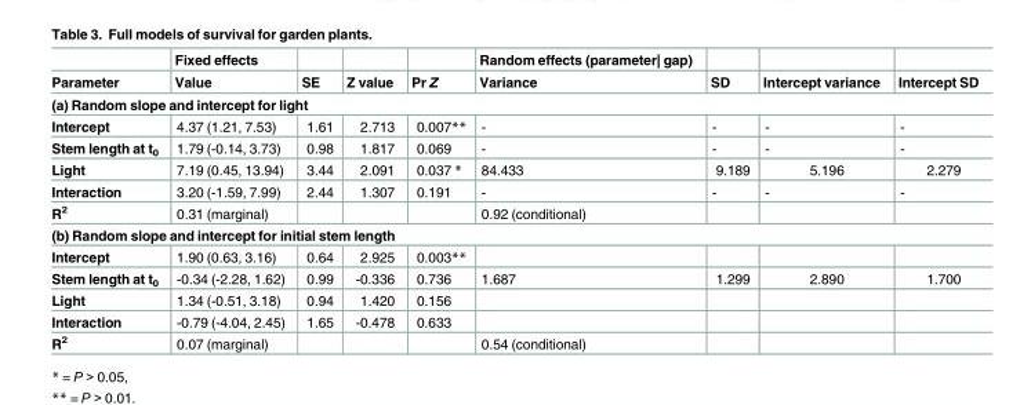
<table><thead><tr><td rowspan="2">Parameter</td><td rowspan="2">Fixed effects Value</td><td rowspan="2">SE</td><td rowspan="2">Z value</td><td rowspan="2">Pr Z</td><td rowspan="2">Random effects (parameter| gap) Variance</td><td rowspan="2">SD</td><td rowspan="2">Intercept variance</td><td rowspan="2">Intercept SD</td></tr><tr></tr></thead><tbody><tr><td colspan="9">(a) Random slope and intercept for light</td></tr><tr><td>Intercept</td><td>4.37 (1.21, 7.53)</td><td>1.61</td><td>2.713</td><td>0.007**</td><td>-</td><td>-</td><td>-</td><td>-</td></tr><tr><td>Stem length at t<sub>0</sub></td><td>1.79 (-0.14, 3.73)</td><td>0.98</td><td>1.817</td><td>0.069</td><td>-</td><td>-</td><td>-</td><td>-</td></tr><tr><td>Light</td><td>7.19 (0.45, 13.94)</td><td>3.44</td><td>2.091</td><td>0.037 *</td><td>84.433</td><td>9.189</td><td>5.196</td><td>2.279</td></tr><tr><td>Interaction</td><td>3.20 (-1.59, 7.99)</td><td>2.44</td><td>1.307</td><td>0.191</td><td>-</td><td>-</td><td>-</td><td>-</td></tr><tr><td>R<sup>2</sup></td><td>0.31 (marginal)</td><td></td><td></td><td></td><td>0.92 (conditional)</td><td></td><td></td><td></td></tr><tr><td colspan="9">(b) Random slope and intercept for initial stem length</td></tr><tr><td>Intercept</td><td>1.90 (0.63, 3.16)</td><td>0.64</td><td>2.925</td><td>0.003**</td><td></td><td></td><td></td><td></td></tr><tr><td>Stem length at t<sub>0</sub></td><td>-0.34 (-2.28, 1.62)</td><td>0.99</td><td>-0.336</td><td>0.736</td><td>1.687</td><td>1.299</td><td>2.890</td><td>1.700</td></tr><tr><td>Light</td><td>1.34 (-0.51, 3.18)</td><td>0.94</td><td>1.420</td><td>0.156</td><td></td><td></td><td></td><td></td></tr><tr><td>Interaction</td><td>-0.79 (-4.04, 2.45)</td><td>1.65</td><td>-0.478</td><td>0.633</td><td></td><td></td><td></td><td></td></tr><tr><td>R<sup>2</sup></td><td>0.07 (marginal)</td><td></td><td></td><td></td><td>0.54 (conditional)</td><td></td><td></td><td></td></tr></tbody></table>